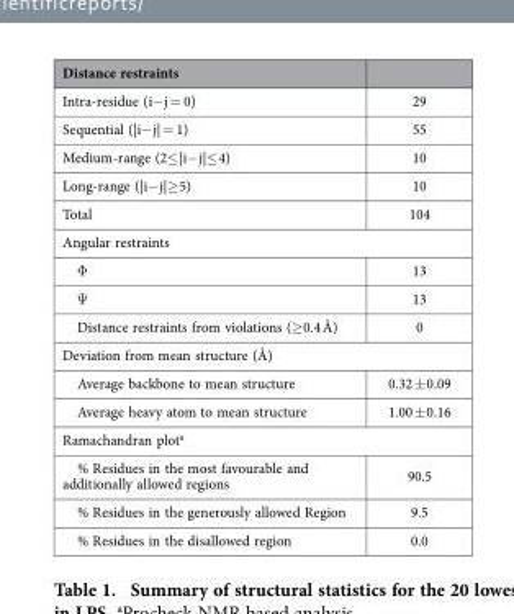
<table><thead><tr><td>Distance restraints</td><td></td></tr></thead><tbody><tr><td>Intra-residue (i− j = 0)</td><td>29</td></tr><tr><td>Sequential (|i− j| = 1)</td><td>55</td></tr><tr><td>Medium-range (2≤ |i− j|≤ 4)</td><td>10</td></tr><tr><td>Long-range (|i− j|≥ 5)</td><td>10</td></tr><tr><td>Total</td><td>104</td></tr><tr><td colspan="2">Angular restraints</td></tr><tr><td>Φ</td><td>13</td></tr><tr><td>Ψ</td><td>13</td></tr><tr><td>Distance restraints from violations (≥ 0.4 Å)</td><td>0</td></tr><tr><td colspan="2">Deviation from mean structure (Å)</td></tr><tr><td>Average backbone to mean structure</td><td>0.32 ± 0.09</td></tr><tr><td>Average heavy atom to mean structure</td><td>1.00 ± 0.16</td></tr><tr><td colspan="2">Ramachandran plot<sup>a</sup></td></tr><tr><td>% Residues in the most favourable and additionally allowed regions</td><td>90.5</td></tr><tr><td>% Residues in the generously allowed Region</td><td>9.5</td></tr><tr><td>% Residues in the disallowed region</td><td>0.0</td></tr></tbody></table>